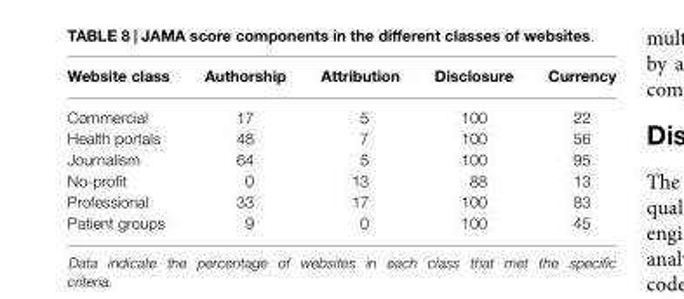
<table><thead><tr><td>Website class</td><td>Authorship</td><td>Attribution</td><td>Disclosure</td><td>Currency</td></tr></thead><tbody><tr><td>Commercial</td><td>17</td><td>5</td><td>100</td><td>22</td></tr><tr><td>Health portals</td><td>48</td><td>7</td><td>100</td><td>56</td></tr><tr><td>Journalism</td><td>64</td><td>5</td><td>100</td><td>95</td></tr><tr><td>No-profit</td><td>0</td><td>13</td><td>88</td><td>13</td></tr><tr><td>Professional</td><td>33</td><td>17</td><td>100</td><td>83</td></tr><tr><td>Patient groups</td><td>9</td><td>0</td><td>100</td><td>45</td></tr></tbody></table>